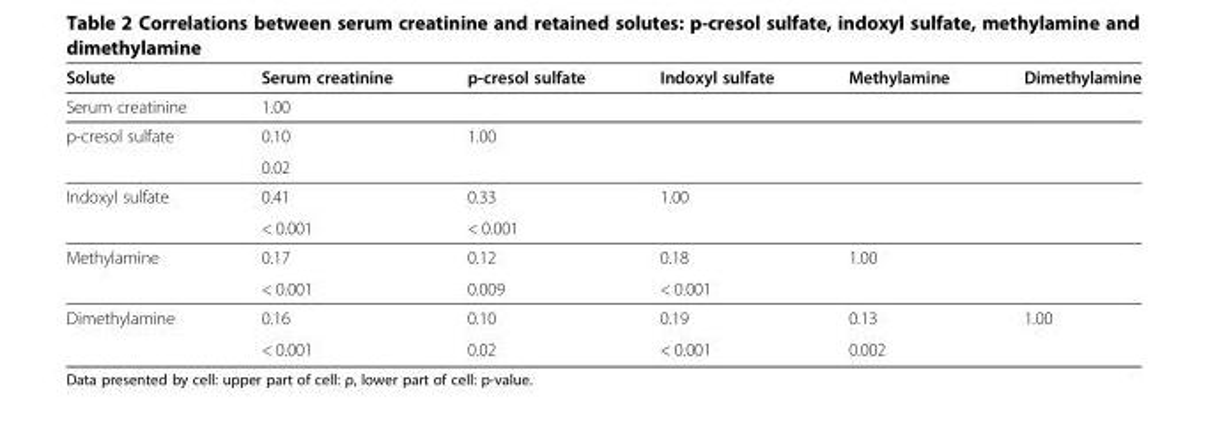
<table><thead><tr><td>Solute</td><td>Serum creatinine</td><td>p-cresol sulfate</td><td>Indoxyl sulfate</td><td>Methylamine</td><td>Dimethylamine</td></tr></thead><tbody><tr><td>Serum creatinine</td><td>1.00</td><td></td><td></td><td></td><td></td></tr><tr><td rowspan="2">p-cresol sulfate</td><td>0.10</td><td>1.00</td><td></td><td></td><td></td></tr><tr><td>0.02</td><td></td><td></td><td></td><td></td></tr><tr><td rowspan="2">Indoxyl sulfate</td><td>0.41</td><td>0.33</td><td>1.00</td><td></td><td></td></tr><tr><td>&lt; 0.001</td><td>&lt; 0.001</td><td></td><td></td><td></td></tr><tr><td rowspan="2">Methylamine</td><td>0.17</td><td>0.12</td><td>0.18</td><td>1.00</td><td></td></tr><tr><td>&lt; 0.001</td><td>0.009</td><td>&lt; 0.001</td><td></td><td></td></tr><tr><td rowspan="2">Dimethylamine</td><td>0.16</td><td>0.10</td><td>0.19</td><td>0.13</td><td>1.00</td></tr><tr><td>&lt; 0.001</td><td>0.02</td><td>&lt; 0.001</td><td>0.002</td><td></td></tr></tbody></table>